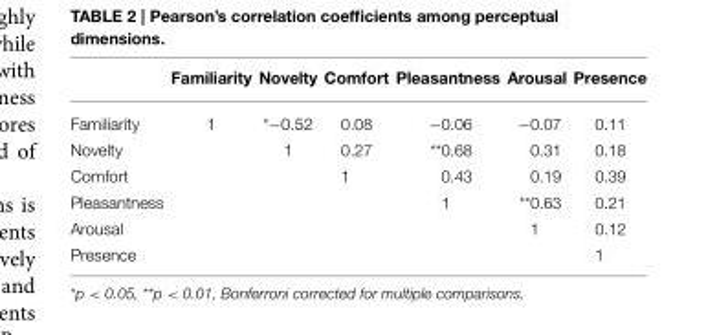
<table><thead><tr><td></td><td>Familiarity</td><td>Novelty</td><td>Comfort</td><td>Pleasantness</td><td>Arousal</td><td>Presence</td></tr></thead><tbody><tr><td>Familiarity</td><td>1</td><td>*−0.52</td><td>0.08</td><td>−0.06</td><td>−0.07</td><td>0.11</td></tr><tr><td>Novelty</td><td></td><td>1</td><td>0.27</td><td>**0.68</td><td>0.31</td><td>0.18</td></tr><tr><td>Comfort</td><td></td><td></td><td>1</td><td>0.43</td><td>0.19</td><td>0.39</td></tr><tr><td>Pleasantness</td><td></td><td></td><td></td><td>1</td><td>**0.63</td><td>0.21</td></tr><tr><td>Arousal</td><td></td><td></td><td></td><td></td><td>1</td><td>0.12</td></tr><tr><td>Presence</td><td></td><td></td><td></td><td></td><td></td><td>1</td></tr></tbody></table>